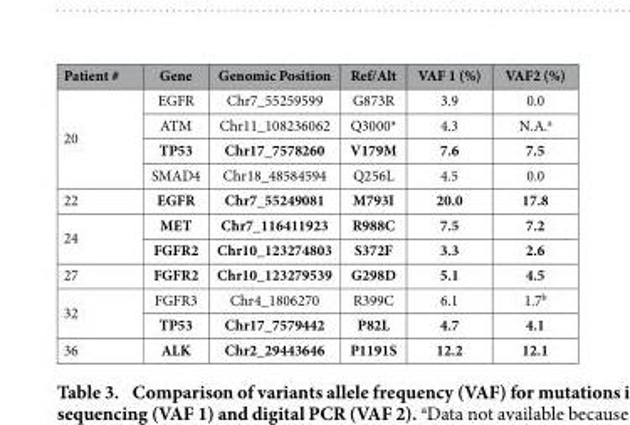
<table><thead><tr><td>Patient #</td><td>Gene</td><td>Genomic Position</td><td>Ref/Alt</td><td>VAF 1 (%)</td><td>VAF2 (%)</td></tr></thead><tbody><tr><td rowspan="4">20</td><td>EGFR</td><td>Chr7_55259599</td><td>G873R</td><td>3.9</td><td>0.0</td></tr><tr><td>ATM</td><td>Chr11_108236062</td><td>Q3000*</td><td>4.3</td><td>N.A.<sup>a</sup></td></tr><tr><td>TP53</td><td>Chr17_7578260</td><td>V179M</td><td>7.6</td><td>7.5</td></tr><tr><td>SMAD4</td><td>Chr18_48584594</td><td>Q256L</td><td>4.5</td><td>0.0</td></tr><tr><td>22</td><td>EGFR</td><td>Chr7_55249081</td><td>M793I</td><td>20.0</td><td>17.8</td></tr><tr><td rowspan="2">24</td><td>MET</td><td>Chr7_116411923</td><td>R988C</td><td>7.5</td><td>7.2</td></tr><tr><td>FGFR2</td><td>Chr10_123274803</td><td>S372F</td><td>3.3</td><td>2.6</td></tr><tr><td>27</td><td>FGFR2</td><td>Chr10_123279539</td><td>G298D</td><td>5.1</td><td>4.5</td></tr><tr><td rowspan="2">32</td><td>FGFR3</td><td>Chr4_1806270</td><td>R399C</td><td>6.1</td><td>1.7<sup>b</sup></td></tr><tr><td>TP53</td><td>Chr17_7579442</td><td>P82L</td><td>4.7</td><td>4.1</td></tr><tr><td>36</td><td>ALK</td><td>Chr2_29443646</td><td>P1191S</td><td>12.2</td><td>12.1</td></tr></tbody></table>